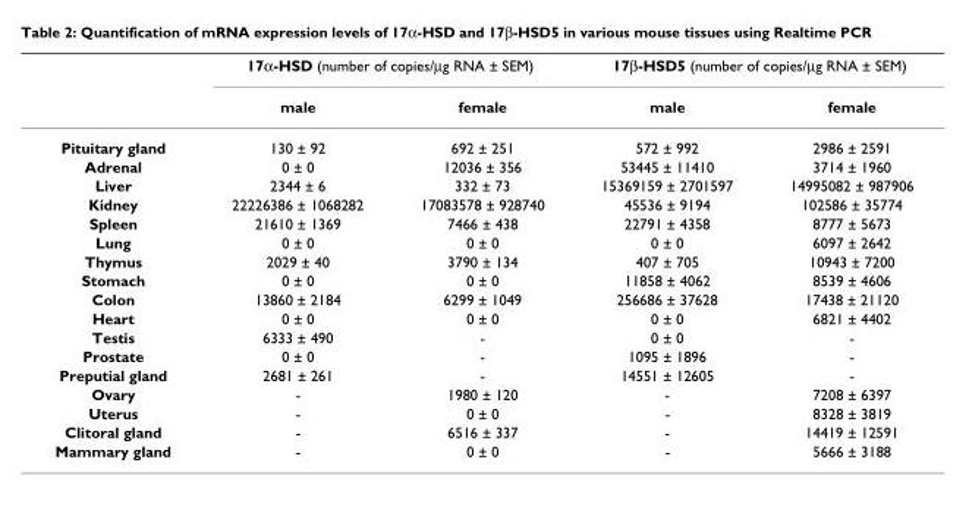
<table><thead><tr><td rowspan="2"></td><td colspan="2">17α-HSD (number of copies/µg RNA ± SEM)</td><td colspan="2">17β-HSD5 (number of copies/µg RNA ± SEM)</td></tr><tr><td>male</td><td>female</td><td>male</td><td>female</td></tr></thead><tbody><tr><td>Pituitary gland</td><td>130 ± 92</td><td>692 ± 251</td><td>572 ± 992</td><td>2986 ± 2591</td></tr><tr><td>Adrenal</td><td>0 ± 0</td><td>12036 ± 356</td><td>53445 ± 11410</td><td>3714 ± 1960</td></tr><tr><td>Liver</td><td>2344 ± 6</td><td>332 ± 73</td><td>15369159 ± 2701597</td><td>14995082 ± 987906</td></tr><tr><td>Kidney</td><td>22226386 ± 1068282</td><td>17083578 ± 928740</td><td>45536 ± 9194</td><td>102586 ± 35774</td></tr><tr><td>Spleen</td><td>21610 ± 1369</td><td>7466 ± 438</td><td>22791 ± 4358</td><td>8777 ± 5673</td></tr><tr><td>Lung</td><td>0 ± 0</td><td>0 ± 0</td><td>0 ± 0</td><td>6097 ± 2642</td></tr><tr><td>Thymus</td><td>2029 ± 40</td><td>3790 ± 134</td><td>407 ± 705</td><td>10943 ± 7200</td></tr><tr><td>Stomach</td><td>0 ± 0</td><td>0 ± 0</td><td>11858 ± 4062</td><td>8539 ± 4606</td></tr><tr><td>Colon</td><td>13860 ± 2184</td><td>6299 ± 1049</td><td>256686 ± 37628</td><td>17438 ± 21120</td></tr><tr><td>Heart</td><td>0 ± 0</td><td>0 ± 0</td><td>0 ± 0</td><td>6821 ± 4402</td></tr><tr><td>Testis</td><td>6333 ± 490</td><td>-</td><td>0 ± 0</td><td>-</td></tr><tr><td>Prostate</td><td>0 ± 0</td><td>-</td><td>1095 ± 1896</td><td>-</td></tr><tr><td>Preputial gland</td><td>2681 ± 261</td><td>-</td><td>14551 ± 12605</td><td>-</td></tr><tr><td>Ovary</td><td>-</td><td>1980 ± 120</td><td>-</td><td>7208 ± 6397</td></tr><tr><td>Uterus</td><td>-</td><td>0 ± 0</td><td>-</td><td>8328 ± 3819</td></tr><tr><td>Clitoral gland</td><td>-</td><td>6516 ± 337</td><td>-</td><td>14419 ± 12591</td></tr><tr><td>Mammary gland</td><td>-</td><td>0 ± 0</td><td>-</td><td>5666 ± 3188</td></tr></tbody></table>